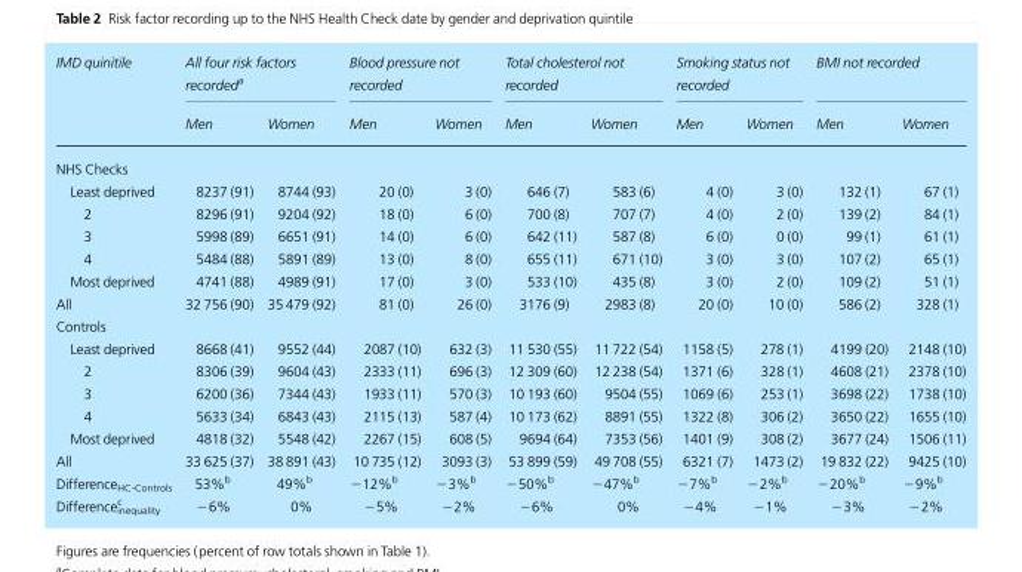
<table><thead><tr><td rowspan="2">IMD quinitile</td><td colspan="2">All four risk factors recorded<sup>a</sup></td><td colspan="2">Blood pressure not recorded</td><td colspan="2">Total cholesterol not recorded</td><td colspan="2">Smoking status not recorded</td><td colspan="2">BMI not recorded</td></tr><tr><td>Men</td><td>Women</td><td>Men</td><td>Women</td><td>Men</td><td>Women</td><td>Men</td><td>Women</td><td>Men</td><td>Women</td></tr></thead><tbody><tr><td colspan="11">NHS Checks</td></tr><tr><td>Least deprived</td><td>8237 (91)</td><td>8744 (93)</td><td>20 (0)</td><td>3 (0)</td><td>646 (7)</td><td>583 (6)</td><td>4 (0)</td><td>3 (0)</td><td>132 (1)</td><td>67 (1)</td></tr><tr><td>2</td><td>8296 (91)</td><td>9204 (92)</td><td>18 (0)</td><td>6 (0)</td><td>700 (8)</td><td>707 (7)</td><td>4 (0)</td><td>2 (0)</td><td>139 (2)</td><td>84 (1)</td></tr><tr><td>3</td><td>5998 (89)</td><td>6651 (91)</td><td>14 (0)</td><td>6 (0)</td><td>642 (11)</td><td>587 (8)</td><td>6 (0)</td><td>0 (0)</td><td>99 (1)</td><td>61 (1)</td></tr><tr><td>4</td><td>5484 (88)</td><td>5891 (89)</td><td>13 (0)</td><td>8 (0)</td><td>655 (11)</td><td>671 (10)</td><td>3 (0)</td><td>3 (0)</td><td>107 (2)</td><td>65 (1)</td></tr><tr><td>Most deprived</td><td>4741 (88)</td><td>4989 (91)</td><td>17 (0)</td><td>3 (0)</td><td>533 (10)</td><td>435 (8)</td><td>3 (0)</td><td>2 (0)</td><td>109 (2)</td><td>51 (1)</td></tr><tr><td>All</td><td>32 756 (90)</td><td>35 479 (92)</td><td>81 (0)</td><td>26 (0)</td><td>3176 (9)</td><td>2983 (8)</td><td>20 (0)</td><td>10 (0)</td><td>586 (2)</td><td>328 (1)</td></tr><tr><td colspan="11">Controls</td></tr><tr><td>Least deprived</td><td>8668 (41)</td><td>9552 (44)</td><td>2087 (10)</td><td>632 (3)</td><td>11 530 (55)</td><td>11 722 (54)</td><td>1158 (5)</td><td>278 (1)</td><td>4199 (20)</td><td>2148 (10)</td></tr><tr><td>2</td><td>8306 (39)</td><td>9604 (43)</td><td>2333 (11)</td><td>696 (3)</td><td>12 309 (60)</td><td>12 238 (54)</td><td>1371 (6)</td><td>328 (1)</td><td>4608 (21)</td><td>2378 (10)</td></tr><tr><td>3</td><td>6200 (36)</td><td>7344 (43)</td><td>1933 (11)</td><td>570 (3)</td><td>10 193 (60)</td><td>9504 (55)</td><td>1069 (6)</td><td>253 (1)</td><td>3698 (22)</td><td>1738 (10)</td></tr><tr><td>4</td><td>5633 (34)</td><td>6843 (43)</td><td>2115 (13)</td><td>587 (4)</td><td>10 173 (62)</td><td>8891 (55)</td><td>1322 (8)</td><td>306 (2)</td><td>3650 (22)</td><td>1655 (10)</td></tr><tr><td>Most deprived</td><td>4818 (32)</td><td>5548 (42)</td><td>2267 (15)</td><td>608 (5)</td><td>9694 (64)</td><td>7353 (56)</td><td>1401 (9)</td><td>308 (2)</td><td>3677 (24)</td><td>1506 (11)</td></tr><tr><td>All</td><td>33 625 (37)</td><td>38 891 (43)</td><td>10 735 (12)</td><td>3093 (3)</td><td>53 899 (59)</td><td>49 708 (55)</td><td>6321 (7)</td><td>1473 (2)</td><td>19 832 (22)</td><td>9425 (10)</td></tr><tr><td>Difference<sub>HC-Controls</sub></td><td>53%<sup>b</sup></td><td>49%<sup>b</sup></td><td>−12%<sup>b</sup></td><td>−3%<sup>b</sup></td><td>−50%<sup>b</sup></td><td>−47%<sup>b</sup></td><td>−7%<sup>b</sup></td><td>−2%<sup>b</sup></td><td>−20%<sup>b</sup></td><td>−9%<sup>b</sup></td></tr><tr><td>Difference<sup>c</sup> <sub>inequality</sub></td><td>−6%</td><td>0%</td><td>−5%</td><td>−2%</td><td>−6%</td><td>0%</td><td>−4%</td><td>−1%</td><td>−3%</td><td>−2%</td></tr></tbody></table>